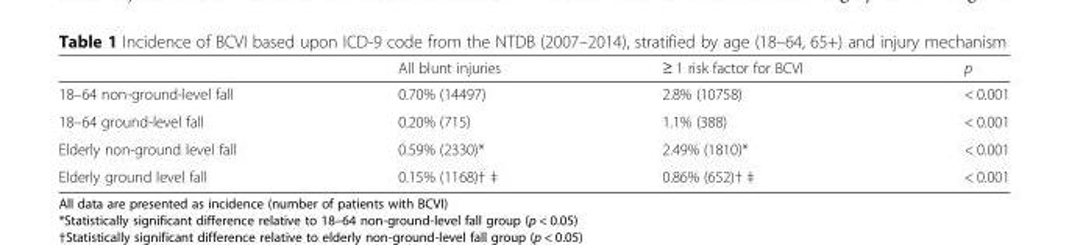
<table><thead><tr><td></td><td>All blunt injuries</td><td>≥ 1 risk factor for BCVI</td><td>p</td></tr></thead><tbody><tr><td>18–64 non-ground-level fall</td><td>0.70% (14497)</td><td>2.8% (10758)</td><td>&lt; 0.001</td></tr><tr><td>18–64 ground-level fall</td><td>0.20% (715)</td><td>1.1% (388)</td><td>&lt; 0.001</td></tr><tr><td>Elderly non-ground level fall</td><td>0.59% (2330)*</td><td>2.49% (1810)*</td><td>&lt; 0.001</td></tr><tr><td>Elderly ground level fall</td><td>0.15% (1168)† ‡</td><td>0.86% (652)† ‡</td><td>&lt; 0.001</td></tr></tbody></table>